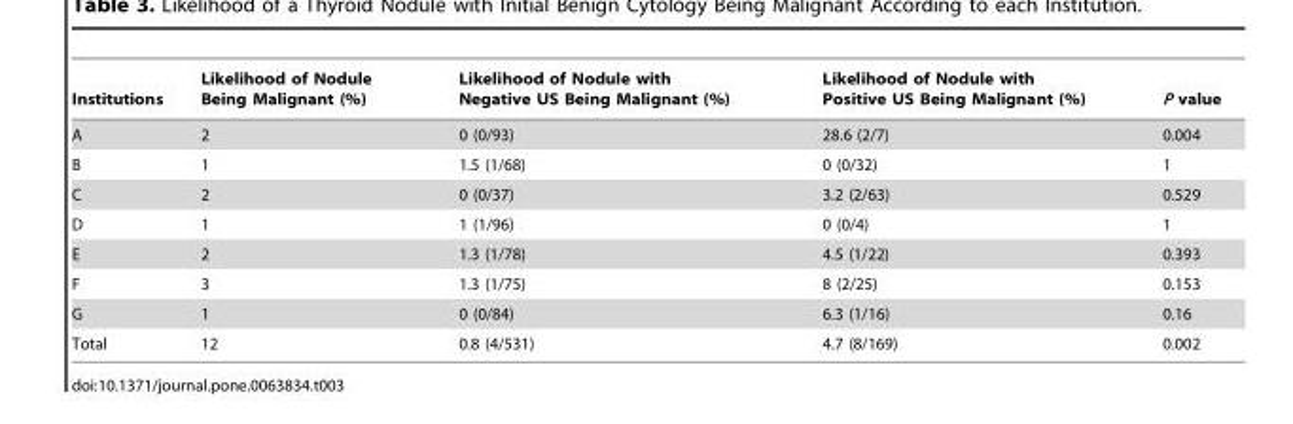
<table><thead><tr><td>Institutions</td><td>Likelihood of Nodule Being Malignant (%)</td><td>Likelihood of Nodule with Negative US Being Malignant (%)</td><td>Likelihood of Nodule with Positive US Being Malignant (%)</td><td>P value</td></tr></thead><tbody><tr><td>A</td><td>2</td><td>0 (0/93)</td><td>28.6 (2/7)</td><td>0.004</td></tr><tr><td>B</td><td>1</td><td>1.5 (1/68)</td><td>0 (0/32)</td><td>1</td></tr><tr><td>C</td><td>2</td><td>0 (0/37)</td><td>3.2 (2/63)</td><td>0.529</td></tr><tr><td>D</td><td>1</td><td>1 (1/96)</td><td>0 (0/4)</td><td>1</td></tr><tr><td>E</td><td>2</td><td>1.3 (1/78)</td><td>4.5 (1/22)</td><td>0.393</td></tr><tr><td>F</td><td>3</td><td>1.3 (1/75)</td><td>8 (2/25)</td><td>0.153</td></tr><tr><td>G</td><td>1</td><td>0 (0/84)</td><td>6.3 (1/16)</td><td>0.16</td></tr><tr><td>Total</td><td>12</td><td>0.8 (4/531)</td><td>4.7 (8/169)</td><td>0.002</td></tr></tbody></table>